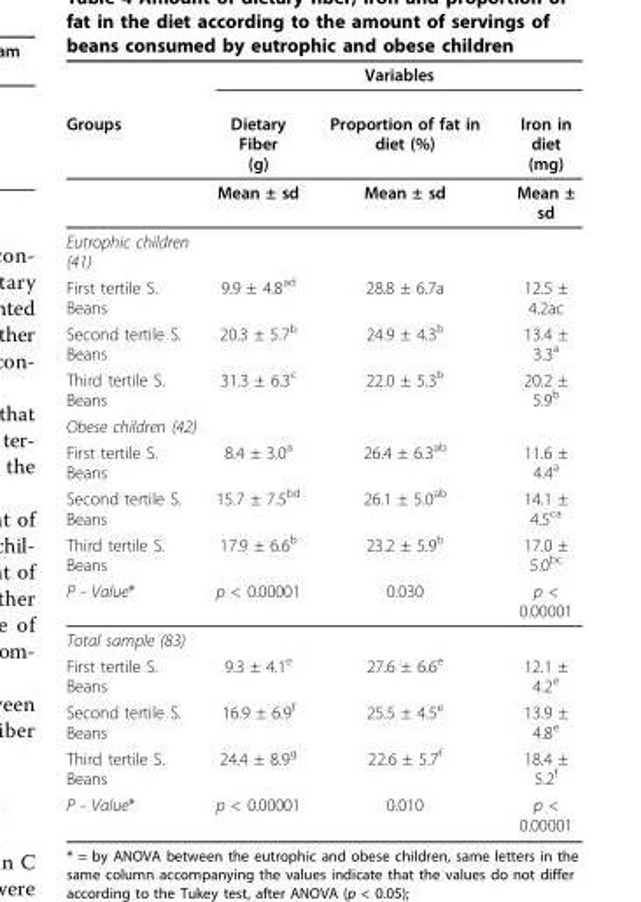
<table><thead><tr><td rowspan="2">Groups</td><td colspan="3">Variables</td></tr><tr><td>Dietary Fiber (g)</td><td>Proportion of fat in diet (%)</td><td>Iron in diet (mg)</td></tr></thead><tbody><tr><td></td><td>Mean ± sd</td><td>Mean ± sd</td><td>Mean ± sd</td></tr><tr><td colspan="4">Eutrophic children (41)</td></tr><tr><td>First tertile S. Beans</td><td>9.9 ± 4.8<sup>ad</sup></td><td>28.8 ± 6.7a</td><td>12.5 ± 4.2ac</td></tr><tr><td>Second tertile S. Beans</td><td>20.3 ± 5.7<sup>b</sup></td><td>24.9 ± 4.3<sup>b</sup></td><td>13.4 ± 3.3<sup>a</sup></td></tr><tr><td>Third tertile S. Beans</td><td>31.3 ± 6.3<sup>c</sup></td><td>22.0 ± 5.3<sup>b</sup></td><td>20.2 ± 5.9<sup>b</sup></td></tr><tr><td colspan="4">Obese children (42)</td></tr><tr><td>First tertile S. Beans</td><td>8.4 ± 3.0<sup>a</sup></td><td>26.4 ± 6.3<sup>ab</sup></td><td>11.6 ± 4.4<sup>a</sup></td></tr><tr><td>Second tertile S. Beans</td><td>15.7 ± 7.5<sup>bd</sup></td><td>26.1 ± 5.0<sup>ab</sup></td><td>14.1 ± 4.5<sup>ca</sup></td></tr><tr><td>Third tertile S. Beans</td><td>17.9 ± 6.6<sup>b</sup></td><td>23.2 ± 5.9<sup>b</sup></td><td>17.0 ± 5.0<sup>bc</sup></td></tr><tr><td>P - Value*</td><td>p &lt; 0.00001</td><td>0.030</td><td>p &lt; 0.00001</td></tr><tr><td colspan="4">Total sample (83)</td></tr><tr><td>First tertile S. Beans</td><td>9.3 ± 4.1<sup>e</sup></td><td>27.6 ± 6.6<sup>e</sup></td><td>12.1 ± 4.2<sup>e</sup></td></tr><tr><td>Second tertile S. Beans</td><td>16.9 ± 6.9<sup>f</sup></td><td>25.5 ± 4.5<sup>e</sup></td><td>13.9 ± 4.8<sup>e</sup></td></tr><tr><td>Third tertile S. Beans</td><td>24.4 ± 8.9<sup>g</sup></td><td>22.6 ± 5.7<sup>f</sup></td><td>18.4 ± 5.2<sup>f</sup></td></tr><tr><td>P - Value*</td><td>p &lt; 0.00001</td><td>0.010</td><td>p &lt; 0.00001</td></tr></tbody></table>